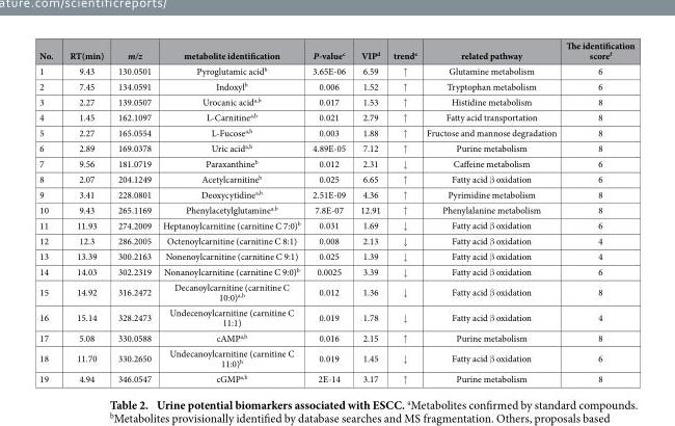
<table><thead><tr><td>No.</td><td>RT(min)</td><td>m/z</td><td>metabolite identification</td><td>P-value<sup>c</sup></td><td>VIP<sup>d</sup></td><td>trend<sup>e</sup></td><td>related pathway</td><td>The identification score<sup>f</sup></td></tr></thead><tbody><tr><td>1</td><td>9.43</td><td>130.0501</td><td>Pyroglutamic acid<sup>b</sup></td><td>3.65E-06</td><td>6.59</td><td>↑</td><td>Glutamine metabolism</td><td>6</td></tr><tr><td>2</td><td>7.45</td><td>134.0591</td><td>Indoxyl<sup>b</sup></td><td>0.006</td><td>1.52</td><td>↑</td><td>Tryptophan metabolism</td><td>6</td></tr><tr><td>3</td><td>2.27</td><td>139.0507</td><td>Urocanic acid<sup>a,b</sup></td><td>0.017</td><td>1.53</td><td>↑</td><td>Histidine metabolism</td><td>8</td></tr><tr><td>4</td><td>1.45</td><td>162.1097</td><td>L-Carnitine<sup>a,b</sup></td><td>0.021</td><td>2.79</td><td>↑</td><td>Fatty acid transportation</td><td>8</td></tr><tr><td>5</td><td>2.27</td><td>165.0554</td><td>L-Fucose<sup>a,b</sup></td><td>0.003</td><td>1.88</td><td>↑</td><td>Fructose and mannose degradation</td><td>8</td></tr><tr><td>6</td><td>2.89</td><td>169.0378</td><td>Uric acid<sup>a,b</sup></td><td>4.89E-05</td><td>7.12</td><td>↑</td><td>Purine metabolism</td><td>8</td></tr><tr><td>7</td><td>9.56</td><td>181.0719</td><td>Paraxanthine<sup>b</sup></td><td>0.012</td><td>2.31</td><td>↓</td><td>Caffeine metabolism</td><td>6</td></tr><tr><td>8</td><td>2.07</td><td>204.1249</td><td>Acetylcarnitine<sup>b</sup></td><td>0.025</td><td>6.65</td><td>↑</td><td>Fatty acid β oxidation</td><td>6</td></tr><tr><td>9</td><td>3.41</td><td>228.0801</td><td>Deoxycytidine<sup>a,b</sup></td><td>2.51E-09</td><td>4.36</td><td>↑</td><td>Pyrimidine metabolism</td><td>8</td></tr><tr><td>10</td><td>9.43</td><td>265.1169</td><td>Phenylacetylglutamine<sup>a,b</sup></td><td>7.8E-07</td><td>12.91</td><td>↑</td><td>Phenylalanine metabolism</td><td>8</td></tr><tr><td>11</td><td>11.93</td><td>274.2009</td><td>Heptanoylcarnitine (carnitine C 7:0)<sup>b</sup></td><td>0.031</td><td>1.69</td><td>↓</td><td>Fatty acid β oxidation</td><td>6</td></tr><tr><td>12</td><td>12.3</td><td>286.2005</td><td>Octenoylcarnitine (carnitine C 8:1)</td><td>0.008</td><td>2.13</td><td>↓</td><td>Fatty acid β oxidation</td><td>4</td></tr><tr><td>13</td><td>13.39</td><td>300.2163</td><td>Nonenoylcarnitine (carnitine C 9:1)</td><td>0.025</td><td>1.39</td><td>↓</td><td>Fatty acid β oxidation</td><td>4</td></tr><tr><td>14</td><td>14.03</td><td>302.2319</td><td>Nonanoylcarnitine (carnitine C 9:0)<sup>b</sup></td><td>0.0025</td><td>3.39</td><td>↓</td><td>Fatty acid β oxidation</td><td>6</td></tr><tr><td>15</td><td>14.92</td><td>316.2472</td><td>Decanoylcarnitine (carnitine C 10:0)<sup>a,b</sup></td><td>0.012</td><td>1.36</td><td>↓</td><td>Fatty acid β oxidation</td><td>8</td></tr><tr><td>16</td><td>15.14</td><td>328.2473</td><td>Undecenoylcarnitine (carnitine C 11:1)</td><td>0.019</td><td>1.78</td><td>↓</td><td>Fatty acid β oxidation</td><td>4</td></tr><tr><td>17</td><td>5.08</td><td>330.0588</td><td>cAMP<sup>a,b</sup></td><td>0.016</td><td>2.15</td><td>↑</td><td>Purine metabolism</td><td>8</td></tr><tr><td>18</td><td>11.70</td><td>330.2650</td><td>Undecanoylcarnitine (carnitine C 11:0)<sup>b</sup></td><td>0.019</td><td>1.45</td><td>↓</td><td>Fatty acid β oxidation</td><td>6</td></tr><tr><td>19</td><td>4.94</td><td>346.0547</td><td>cGMP<sup>a,b</sup></td><td>2E-14</td><td>3.17</td><td>↑</td><td>Purine metabolism</td><td>8</td></tr></tbody></table>